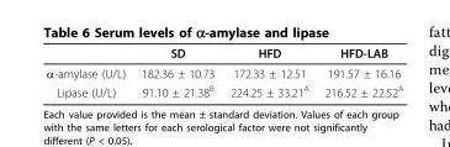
<table><thead><tr><td></td><td>SD</td><td>HFD</td><td>HFD-LAB</td></tr></thead><tbody><tr><td>α-amylase (U/L)</td><td>182.36 ± 10.73</td><td>172.33 ± 12.51</td><td>191.57 ± 16.16</td></tr><tr><td>Lipase (U/L)</td><td>91.10 ± 21.38<sup>B</sup></td><td>224.25 ± 33.21<sup>A</sup></td><td>216.52 ± 22.52<sup>A</sup></td></tr></tbody></table>